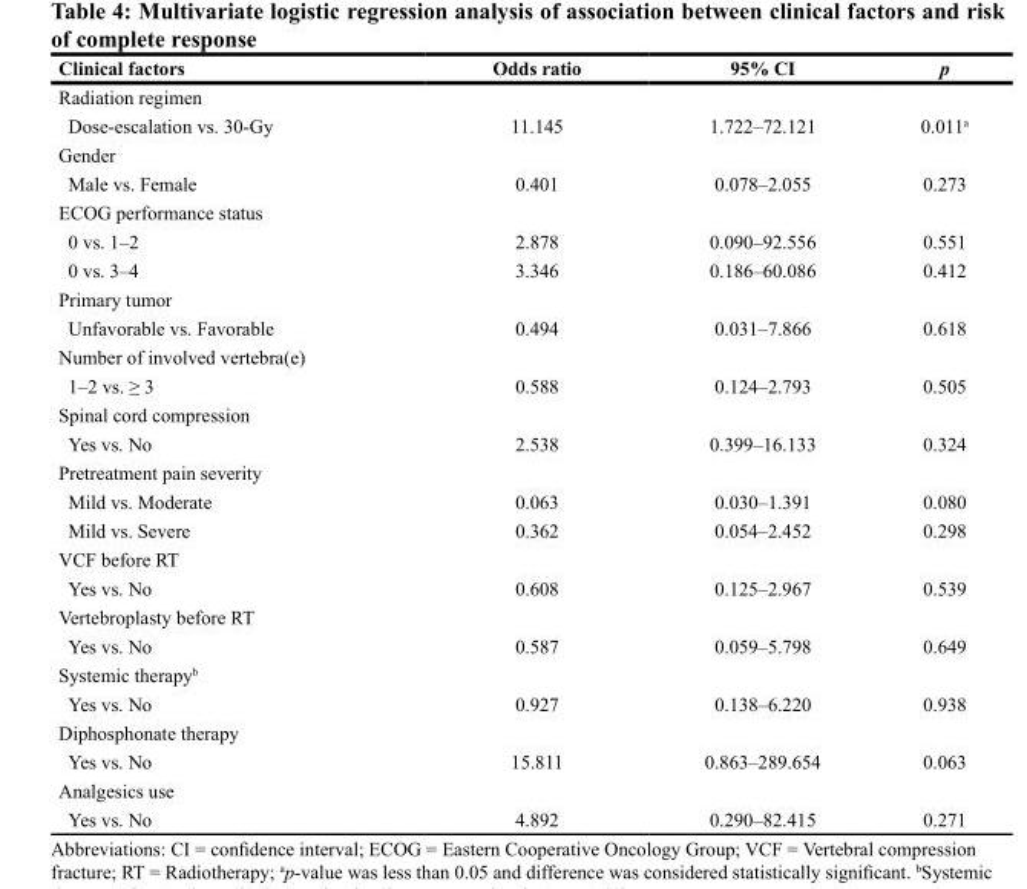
<table><thead><tr><td>Clinical factors</td><td>Odds ratio</td><td>95% CI</td><td>p</td></tr></thead><tbody><tr><td colspan="4">Radiation regimen</td></tr><tr><td>Dose-escalation vs. 30-Gy</td><td>11.145</td><td>1.722–72.121</td><td>0.011<sup>a</sup></td></tr><tr><td colspan="4">Gender</td></tr><tr><td>Male vs. Female</td><td>0.401</td><td>0.078–2.055</td><td>0.273</td></tr><tr><td colspan="4">ECOG performance status</td></tr><tr><td>0 vs. 1–2</td><td>2.878</td><td>0.090–92.556</td><td>0.551</td></tr><tr><td>0 vs. 3–4</td><td>3.346</td><td>0.186–60.086</td><td>0.412</td></tr><tr><td colspan="4">Primary tumor</td></tr><tr><td>Unfavorable vs. Favorable</td><td>0.494</td><td>0.031–7.866</td><td>0.618</td></tr><tr><td colspan="4">Number of involved vertebra(e)</td></tr><tr><td>1–2 vs. ≥ 3</td><td>0.588</td><td>0.124–2.793</td><td>0.505</td></tr><tr><td colspan="4">Spinal cord compression</td></tr><tr><td>Yes vs. No</td><td>2.538</td><td>0.399–16.133</td><td>0.324</td></tr><tr><td colspan="4">Pretreatment pain severity</td></tr><tr><td>Mild vs. Moderate</td><td>0.063</td><td>0.030–1.391</td><td>0.080</td></tr><tr><td>Mild vs. Severe</td><td>0.362</td><td>0.054–2.452</td><td>0.298</td></tr><tr><td colspan="4">VCF before RT</td></tr><tr><td>Yes vs. No</td><td>0.608</td><td>0.125–2.967</td><td>0.539</td></tr><tr><td colspan="4">Vertebroplasty before RT</td></tr><tr><td>Yes vs. No</td><td>0.587</td><td>0.059–5.798</td><td>0.649</td></tr><tr><td colspan="4">Systemic therapy<sup>b</sup></td></tr><tr><td>Yes vs. No</td><td>0.927</td><td>0.138–6.220</td><td>0.938</td></tr><tr><td colspan="4">Diphosphonate therapy</td></tr><tr><td>Yes vs. No</td><td>15.811</td><td>0.863–289.654</td><td>0.063</td></tr><tr><td colspan="4">Analgesics use</td></tr><tr><td>Yes vs. No</td><td>4.892</td><td>0.290–82.415</td><td>0.271</td></tr></tbody></table>